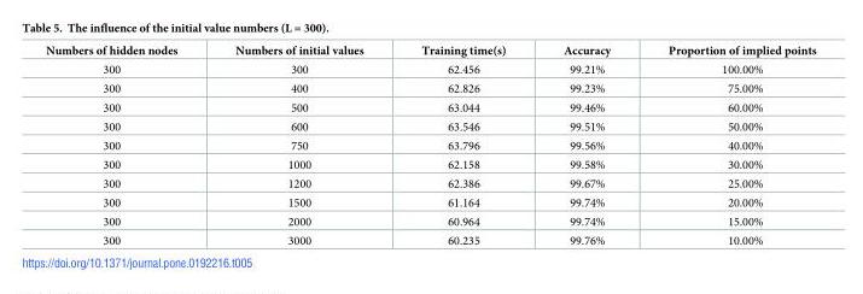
<table><thead><tr><td>Numbers of hidden nodes</td><td>Numbers of initial values</td><td>Training time(s)</td><td>Accuracy</td><td>Proportion of implied points</td></tr></thead><tbody><tr><td>300</td><td>300</td><td>62.456</td><td>99.21%</td><td>100.00%</td></tr><tr><td>300</td><td>400</td><td>62.826</td><td>99.23%</td><td>75.00%</td></tr><tr><td>300</td><td>500</td><td>63.044</td><td>99.46%</td><td>60.00%</td></tr><tr><td>300</td><td>600</td><td>63.546</td><td>99.51%</td><td>50.00%</td></tr><tr><td>300</td><td>750</td><td>63.796</td><td>99.56%</td><td>40.00%</td></tr><tr><td>300</td><td>1000</td><td>62.158</td><td>99.58%</td><td>30.00%</td></tr><tr><td>300</td><td>1200</td><td>62.386</td><td>99.67%</td><td>25.00%</td></tr><tr><td>300</td><td>1500</td><td>61.164</td><td>99.74%</td><td>20.00%</td></tr><tr><td>300</td><td>2000</td><td>60.964</td><td>99.74%</td><td>15.00%</td></tr><tr><td>300</td><td>3000</td><td>60.235</td><td>99.76%</td><td>10.00%</td></tr></tbody></table>